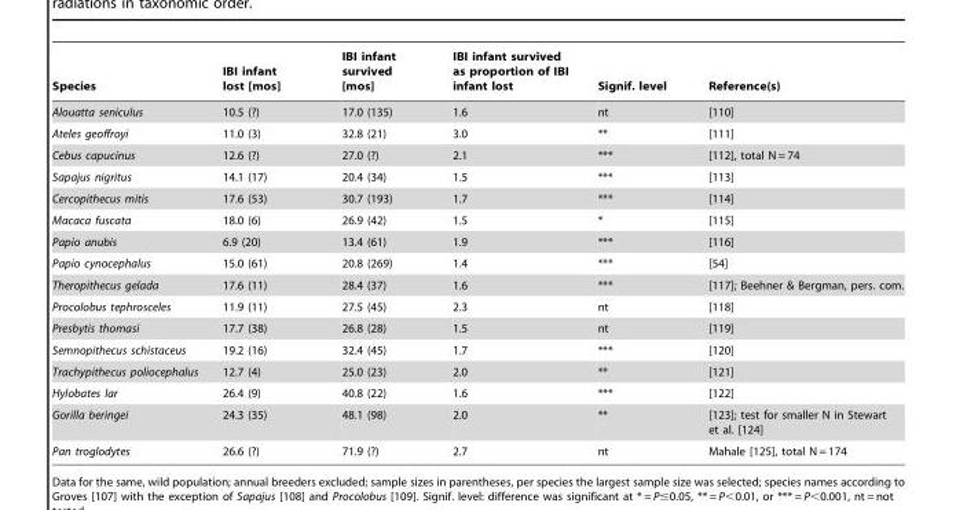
<table><thead><tr><td>Species</td><td>IBI infant lost [mos]</td><td>IBI infant survived [mos]</td><td>IBI infant survived as proportion of IBI infant lost</td><td>Signif. level</td><td>Reference(s)</td></tr></thead><tbody><tr><td>Alouatta seniculus</td><td>10.5 (?)</td><td>17.0 (135)</td><td>1.6</td><td>nt</td><td>[110]</td></tr><tr><td>Ateles geoffroyi</td><td>11.0 (3)</td><td>32.8 (21)</td><td>3.0</td><td>**</td><td>[111]</td></tr><tr><td>Cebus capucinus</td><td>12.6 (?)</td><td>27.0 (?)</td><td>2.1</td><td>***</td><td>[112], total N = 74</td></tr><tr><td>Sapajus nigritus</td><td>14.1 (17)</td><td>20.4 (34)</td><td>1.5</td><td>***</td><td>[113]</td></tr><tr><td>Cercopithecus mitis</td><td>17.6 (53)</td><td>30.7 (193)</td><td>1.7</td><td>***</td><td>[114]</td></tr><tr><td>Macaca fuscata</td><td>18.0 (6)</td><td>26.9 (42)</td><td>1.5</td><td>*</td><td>[115]</td></tr><tr><td>Papio anubis</td><td>6.9 (20)</td><td>13.4 (61)</td><td>1.9</td><td>***</td><td>[116]</td></tr><tr><td>Papio cynocephalus</td><td>15.0 (61)</td><td>20.8 (269)</td><td>1.4</td><td>***</td><td>[54]</td></tr><tr><td>Theropithecus gelada</td><td>17.6 (11)</td><td>28.4 (37)</td><td>1.6</td><td>***</td><td>[117]; Beehner &amp; Bergman, pers. com.</td></tr><tr><td>Procolobus tephrosceles</td><td>11.9 (11)</td><td>27.5 (45)</td><td>2.3</td><td>nt</td><td>[118]</td></tr><tr><td>Presbytis thomasi</td><td>17.7 (38)</td><td>26.8 (28)</td><td>1.5</td><td>nt</td><td>[119]</td></tr><tr><td>Semnopithecus schistaceus</td><td>19.2 (16)</td><td>32.4 (45)</td><td>1.7</td><td>***</td><td>[120]</td></tr><tr><td>Trachypithecus poliocephalus</td><td>12.7 (4)</td><td>25.0 (23)</td><td>2.0</td><td>**</td><td>[121]</td></tr><tr><td>Hylobates lar</td><td>26.4 (9)</td><td>40.8 (22)</td><td>1.6</td><td>***</td><td>[122]</td></tr><tr><td>Gorilla beringei</td><td>24.3 (35)</td><td>48.1 (98)</td><td>2.0</td><td>**</td><td>[123]; test for smaller N in Stewart et al. [124]</td></tr><tr><td>Pan troglodytes</td><td>26.6 (?)</td><td>71.9 (?)</td><td>2.7</td><td>nt</td><td>Mahale [125], total N = 174</td></tr></tbody></table>